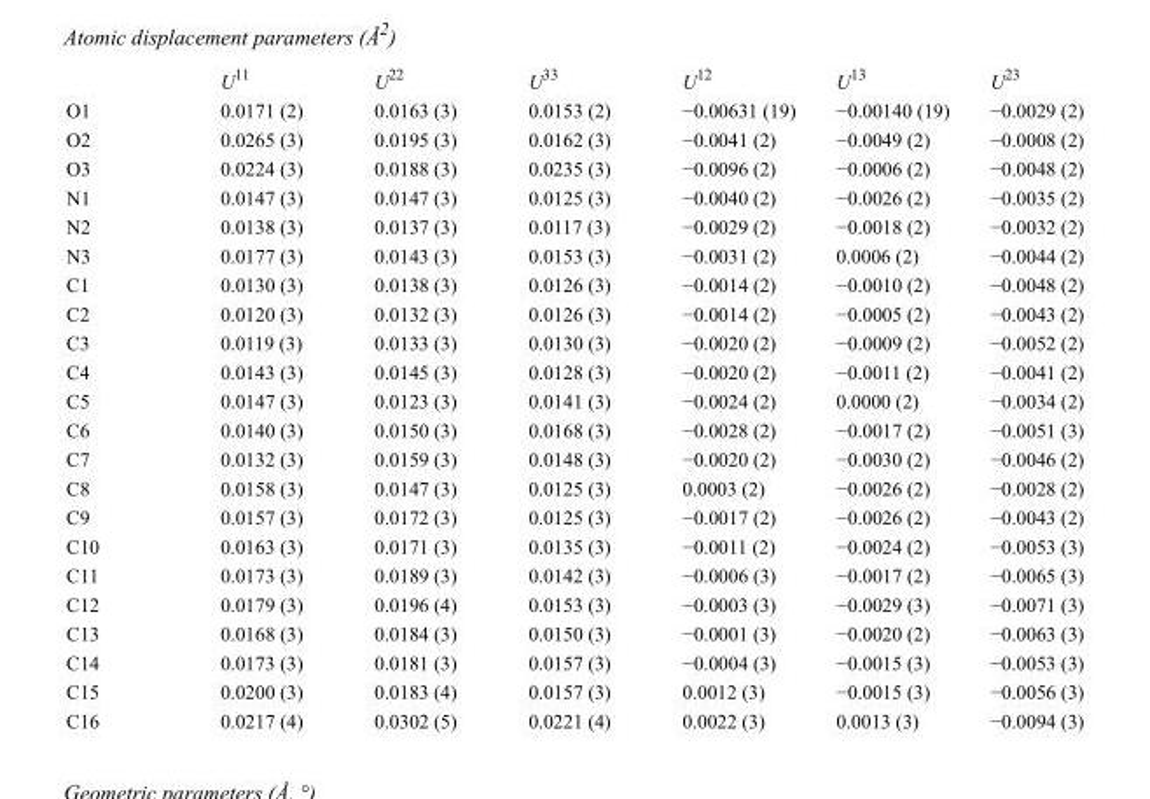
<table><thead><tr><td></td><td>U<sup>11</sup></td><td>U<sup>22</sup></td><td>U<sup>33</sup></td><td>U<sup>12</sup></td><td>U<sup>13</sup></td><td>U<sup>23</sup></td></tr></thead><tbody><tr><td>O1</td><td>0.0171 (2)</td><td>0.0163 (3)</td><td>0.0153 (2)</td><td>−0.00631 (19)</td><td>−0.00140 (19)</td><td>−0.0029 (2)</td></tr><tr><td>O2</td><td>0.0265 (3)</td><td>0.0195 (3)</td><td>0.0162 (3)</td><td>−0.0041 (2)</td><td>−0.0049 (2)</td><td>−0.0008 (2)</td></tr><tr><td>O3</td><td>0.0224 (3)</td><td>0.0188 (3)</td><td>0.0235 (3)</td><td>−0.0096 (2)</td><td>−0.0006 (2)</td><td>−0.0048 (2)</td></tr><tr><td>N1</td><td>0.0147 (3)</td><td>0.0147 (3)</td><td>0.0125 (3)</td><td>−0.0040 (2)</td><td>−0.0026 (2)</td><td>−0.0035 (2)</td></tr><tr><td>N2</td><td>0.0138 (3)</td><td>0.0137 (3)</td><td>0.0117 (3)</td><td>−0.0029 (2)</td><td>−0.0018 (2)</td><td>−0.0032 (2)</td></tr><tr><td>N3</td><td>0.0177 (3)</td><td>0.0143 (3)</td><td>0.0153 (3)</td><td>−0.0031 (2)</td><td>0.0006 (2)</td><td>−0.0044 (2)</td></tr><tr><td>C1</td><td>0.0130 (3)</td><td>0.0138 (3)</td><td>0.0126 (3)</td><td>−0.0014 (2)</td><td>−0.0010 (2)</td><td>−0.0048 (2)</td></tr><tr><td>C2</td><td>0.0120 (3)</td><td>0.0132 (3)</td><td>0.0126 (3)</td><td>−0.0014 (2)</td><td>−0.0005 (2)</td><td>−0.0043 (2)</td></tr><tr><td>C3</td><td>0.0119 (3)</td><td>0.0133 (3)</td><td>0.0130 (3)</td><td>−0.0020 (2)</td><td>−0.0009 (2)</td><td>−0.0052 (2)</td></tr><tr><td>C4</td><td>0.0143 (3)</td><td>0.0145 (3)</td><td>0.0128 (3)</td><td>−0.0020 (2)</td><td>−0.0011 (2)</td><td>−0.0041 (2)</td></tr><tr><td>C5</td><td>0.0147 (3)</td><td>0.0123 (3)</td><td>0.0141 (3)</td><td>−0.0024 (2)</td><td>0.0000 (2)</td><td>−0.0034 (2)</td></tr><tr><td>C6</td><td>0.0140 (3)</td><td>0.0150 (3)</td><td>0.0168 (3)</td><td>−0.0028 (2)</td><td>−0.0017 (2)</td><td>−0.0051 (3)</td></tr><tr><td>C7</td><td>0.0132 (3)</td><td>0.0159 (3)</td><td>0.0148 (3)</td><td>−0.0020 (2)</td><td>−0.0030 (2)</td><td>−0.0046 (2)</td></tr><tr><td>C8</td><td>0.0158 (3)</td><td>0.0147 (3)</td><td>0.0125 (3)</td><td>0.0003 (2)</td><td>−0.0026 (2)</td><td>−0.0028 (2)</td></tr><tr><td>C9</td><td>0.0157 (3)</td><td>0.0172 (3)</td><td>0.0125 (3)</td><td>−0.0017 (2)</td><td>−0.0026 (2)</td><td>−0.0043 (2)</td></tr><tr><td>C10</td><td>0.0163 (3)</td><td>0.0171 (3)</td><td>0.0135 (3)</td><td>−0.0011 (2)</td><td>−0.0024 (2)</td><td>−0.0053 (3)</td></tr><tr><td>C11</td><td>0.0173 (3)</td><td>0.0189 (3)</td><td>0.0142 (3)</td><td>−0.0006 (3)</td><td>−0.0017 (2)</td><td>−0.0065 (3)</td></tr><tr><td>C12</td><td>0.0179 (3)</td><td>0.0196 (4)</td><td>0.0153 (3)</td><td>−0.0003 (3)</td><td>−0.0029 (3)</td><td>−0.0071 (3)</td></tr><tr><td>C13</td><td>0.0168 (3)</td><td>0.0184 (3)</td><td>0.0150 (3)</td><td>−0.0001 (3)</td><td>−0.0020 (2)</td><td>−0.0063 (3)</td></tr><tr><td>C14</td><td>0.0173 (3)</td><td>0.0181 (3)</td><td>0.0157 (3)</td><td>−0.0004 (3)</td><td>−0.0015 (3)</td><td>−0.0053 (3)</td></tr><tr><td>C15</td><td>0.0200 (3)</td><td>0.0183 (4)</td><td>0.0157 (3)</td><td>0.0012 (3)</td><td>−0.0015 (3)</td><td>−0.0056 (3)</td></tr><tr><td>C16</td><td>0.0217 (4)</td><td>0.0302 (5)</td><td>0.0221 (4)</td><td>0.0022 (3)</td><td>0.0013 (3)</td><td>−0.0094 (3)</td></tr></tbody></table>